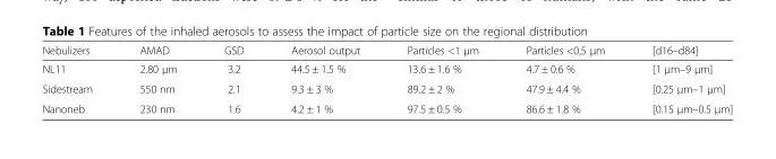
<table><thead><tr><td>Nebulizers</td><td>AMAD</td><td>GSD</td><td>Aerosol output</td><td>Particles &lt;1 μm</td><td>Particles &lt;0,5 μm</td><td>[d16–d84]</td></tr></thead><tbody><tr><td>NL11</td><td>2.80 μm</td><td>3.2</td><td>44.5 ± 1.5 %</td><td>13.6 ± 1.6 %</td><td>4.7 ± 0.6 %</td><td>[1 μm–9 μm]</td></tr><tr><td>Sidestream</td><td>550 nm</td><td>2.1</td><td>9.3 ± 3 %</td><td>89.2 ± 2 %</td><td>47.9 ± 4.4 %</td><td>[0.25 μm–1 μm]</td></tr><tr><td>Nanoneb</td><td>230 nm</td><td>1.6</td><td>4.2 ± 1 %</td><td>97.5 ± 0.5 %</td><td>86.6 ± 1.8 %</td><td>[0.15 μm–0.5 μm]</td></tr></tbody></table>